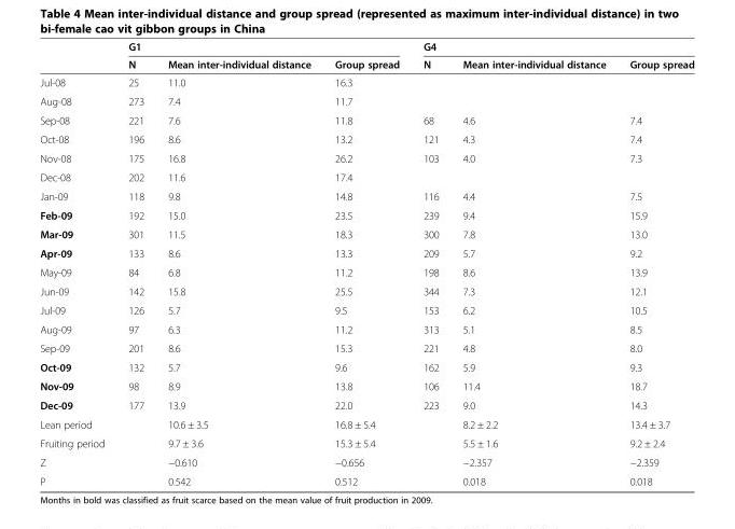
<table><thead><tr><td rowspan="2"></td><td colspan="3">G1</td><td colspan="3">G4</td></tr><tr><td>N</td><td>Mean inter-individual distance</td><td>Group spread</td><td>N</td><td>Mean inter-individual distance</td><td>Group spread</td></tr></thead><tbody><tr><td>Jul-08</td><td>25</td><td>11.0</td><td>16.3</td><td></td><td></td><td></td></tr><tr><td>Aug-08</td><td>273</td><td>7.4</td><td>11.7</td><td></td><td></td><td></td></tr><tr><td>Sep-08</td><td>221</td><td>7.6</td><td>11.8</td><td>68</td><td>4.6</td><td>7.4</td></tr><tr><td>Oct-08</td><td>196</td><td>8.6</td><td>13.2</td><td>121</td><td>4.3</td><td>7.4</td></tr><tr><td>Nov-08</td><td>175</td><td>16.8</td><td>26.2</td><td>103</td><td>4.0</td><td>7.3</td></tr><tr><td>Dec-08</td><td>202</td><td>11.6</td><td>17.4</td><td></td><td></td><td></td></tr><tr><td>Jan-09</td><td>118</td><td>9.8</td><td>14.8</td><td>116</td><td>4.4</td><td>7.5</td></tr><tr><td>Feb-09</td><td>192</td><td>15.0</td><td>23.5</td><td>239</td><td>9.4</td><td>15.9</td></tr><tr><td>Mar-09</td><td>301</td><td>11.5</td><td>18.3</td><td>300</td><td>7.8</td><td>13.0</td></tr><tr><td>Apr-09</td><td>133</td><td>8.6</td><td>13.3</td><td>209</td><td>5.7</td><td>9.2</td></tr><tr><td>May-09</td><td>84</td><td>6.8</td><td>11.2</td><td>198</td><td>8.6</td><td>13.9</td></tr><tr><td>Jun-09</td><td>142</td><td>15.8</td><td>25.5</td><td>344</td><td>7.3</td><td>12.1</td></tr><tr><td>Jul-09</td><td>126</td><td>5.7</td><td>9.5</td><td>153</td><td>6.2</td><td>10.5</td></tr><tr><td>Aug-09</td><td>97</td><td>6.3</td><td>11.2</td><td>313</td><td>5.1</td><td>8.5</td></tr><tr><td>Sep-09</td><td>201</td><td>8.6</td><td>15.3</td><td>221</td><td>4.8</td><td>8.0</td></tr><tr><td>Oct-09</td><td>132</td><td>5.7</td><td>9.6</td><td>162</td><td>5.9</td><td>9.3</td></tr><tr><td>Nov-09</td><td>98</td><td>8.9</td><td>13.8</td><td>106</td><td>11.4</td><td>18.7</td></tr><tr><td>Dec-09</td><td>177</td><td>13.9</td><td>22.0</td><td>223</td><td>9.0</td><td>14.3</td></tr><tr><td>Lean period</td><td></td><td>10.6 ± 3.5</td><td>16.8 ± 5.4</td><td></td><td>8.2 ± 2.2</td><td>13.4 ± 3.7</td></tr><tr><td>Fruiting period</td><td></td><td>9.7 ± 3.6</td><td>15.3 ± 5.4</td><td></td><td>5.5 ± 1.6</td><td>9.2 ± 2.4</td></tr><tr><td>Z</td><td></td><td>−0.610</td><td>−0.656</td><td></td><td>−2.357</td><td>−2.359</td></tr><tr><td>P</td><td></td><td>0.542</td><td>0.512</td><td></td><td>0.018</td><td>0.018</td></tr></tbody></table>